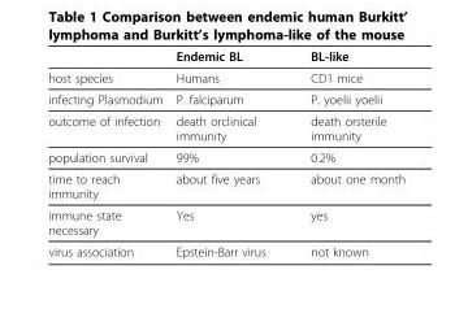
<table><thead><tr><td></td><td>Endemic BL</td><td>BL-like</td></tr></thead><tbody><tr><td>host species</td><td>Humans</td><td>CD1 mice</td></tr><tr><td>infecting Plasmodium</td><td>P. falciparum</td><td>P. yoelii yoelii</td></tr><tr><td>outcome of infection</td><td>death orclinical immunity</td><td>death orsterile immunity</td></tr><tr><td>population survival</td><td>99%</td><td>0.2%</td></tr><tr><td>time to reach immunity</td><td>about five years</td><td>about one month</td></tr><tr><td>immune state necessary</td><td>Yes</td><td>yes</td></tr><tr><td>virus association</td><td>Epstein-Barr virus</td><td>not known</td></tr></tbody></table>